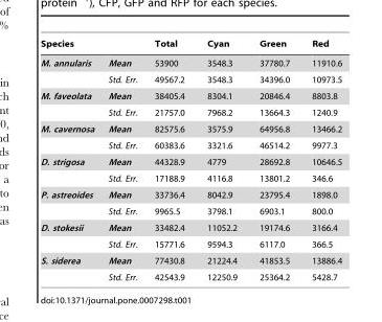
<table><thead><tr><td>Species</td><td></td><td>Total</td><td>Cyan</td><td>Green</td><td>Red</td></tr></thead><tbody><tr><td rowspan="2">M. annularis</td><td>Mean</td><td>53900</td><td>3548.3</td><td>37780.7</td><td>11910.6</td></tr><tr><td>Std. Err.</td><td>49567.2</td><td>3548.3</td><td>34396.0</td><td>10973.5</td></tr><tr><td rowspan="2">M. faveolata</td><td>Mean</td><td>38405.4</td><td>8304.1</td><td>20846.4</td><td>8803.8</td></tr><tr><td>Std. Err.</td><td>21757.0</td><td>7968.2</td><td>13664.3</td><td>1240.9</td></tr><tr><td rowspan="2">M. cavernosa</td><td>Mean</td><td>82575.6</td><td>3575.9</td><td>64956.8</td><td>13466.2</td></tr><tr><td>Std. Err.</td><td>60383.6</td><td>3321.6</td><td>46514.2</td><td>9977.3</td></tr><tr><td rowspan="2">D. strigosa</td><td>Mean</td><td>44328.9</td><td>4779</td><td>28692.8</td><td>10646.5</td></tr><tr><td>Std. Err.</td><td>17188.9</td><td>4116.8</td><td>13801.2</td><td>346.6</td></tr><tr><td rowspan="2">P. astreoides</td><td>Mean</td><td>33736.4</td><td>8042.9</td><td>23795.4</td><td>1898.0</td></tr><tr><td>Std. Err.</td><td>9965.5</td><td>3798.1</td><td>6903.1</td><td>800.0</td></tr><tr><td rowspan="2">D. stokesii</td><td>Mean</td><td>33482.4</td><td>11052.2</td><td>19174.6</td><td>3166.4</td></tr><tr><td>Std. Err.</td><td>15771.6</td><td>9594.3</td><td>6117.0</td><td>366.5</td></tr><tr><td rowspan="2">S. siderea</td><td>Mean</td><td>77430.8</td><td>21224.4</td><td>41853.5</td><td>13886.4</td></tr><tr><td>Std. Err.</td><td>42543.9</td><td>12250.9</td><td>25364.2</td><td>5428.7</td></tr></tbody></table>